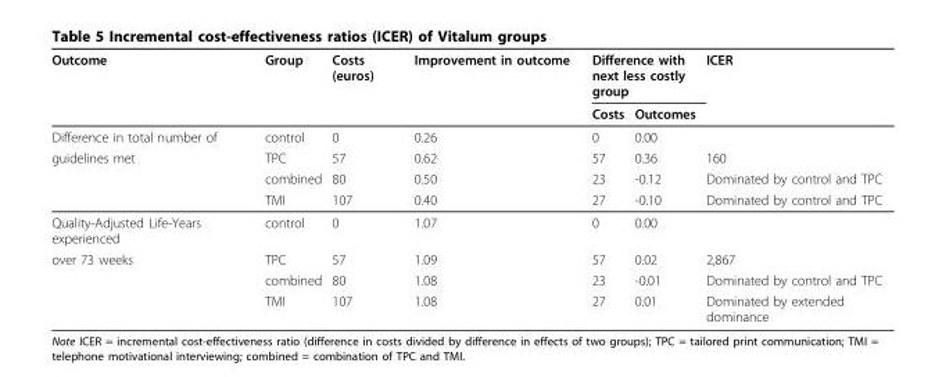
<table><thead><tr><td rowspan="2">Outcome</td><td rowspan="2">Group</td><td rowspan="2">Costs (euros)</td><td rowspan="2">Improvement in outcome</td><td colspan="2">Difference with next less costly group</td><td rowspan="2">ICER</td></tr><tr><td>Costs</td><td>Outcomes</td></tr></thead><tbody><tr><td rowspan="4">Difference in total number of guidelines met</td><td>control</td><td>0</td><td>0.26</td><td>0</td><td>0.00</td><td></td></tr><tr><td>TPC</td><td>57</td><td>0.62</td><td>57</td><td>0.36</td><td>160</td></tr><tr><td>combined</td><td>80</td><td>0.50</td><td>23</td><td>-0.12</td><td>Dominated by control and TPC</td></tr><tr><td>TMI</td><td>107</td><td>0.40</td><td>27</td><td>-0.10</td><td>Dominated by control and TPC</td></tr><tr><td rowspan="4">Quality-Adjusted Life-Years experienced over 73 weeks</td><td>control</td><td>0</td><td>1.07</td><td>0</td><td>0.00</td><td></td></tr><tr><td>TPC</td><td>57</td><td>1.09</td><td>57</td><td>0.02</td><td>2,867</td></tr><tr><td>combined</td><td>80</td><td>1.08</td><td>23</td><td>-0.01</td><td>Dominated by control and TPC</td></tr><tr><td>TMI</td><td>107</td><td>1.08</td><td>27</td><td>0.01</td><td>Dominated by extended dominance</td></tr></tbody></table>